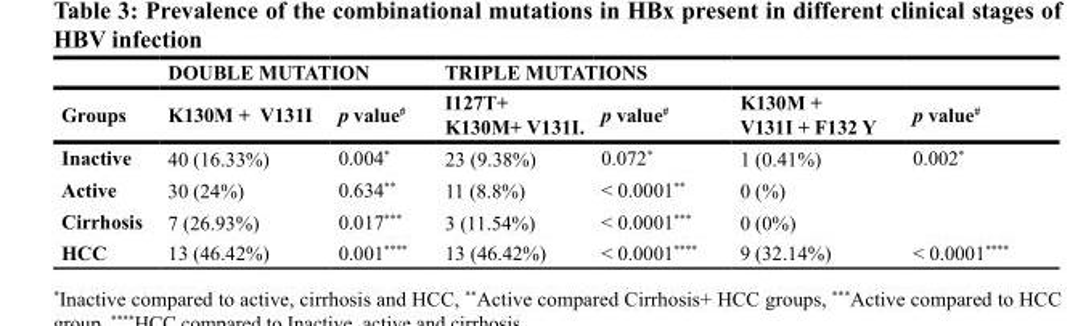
<table><thead><tr><td rowspan="2">Groups</td><td colspan="2">DOUBLE MUTATION</td><td colspan="2">TRIPLE MUTATIONS</td><td rowspan="2">K130M + V131I + F132 Y</td><td rowspan="2">p value<sup>#</sup></td></tr><tr><td>K130M + V131I</td><td>p value<sup>#</sup></td><td>I127T+ K130M+ V131I.</td><td>p value<sup>#</sup></td></tr></thead><tbody><tr><td>Inactive</td><td>40 (16.33%)</td><td>0.004*</td><td>23 (9.38%)</td><td>0.072*</td><td>1 (0.41%)</td><td>0.002*</td></tr><tr><td>Active</td><td>30 (24%)</td><td>0.634**</td><td>11 (8.8%)</td><td>&lt; 0.0001**</td><td>0 (%)</td><td></td></tr><tr><td>Cirrhosis</td><td>7 (26.93%)</td><td>0.017***</td><td>3 (11.54%)</td><td>&lt; 0.0001***</td><td>0 (0%)</td><td></td></tr><tr><td>HCC</td><td>13 (46.42%)</td><td>0.001****</td><td>13 (46.42%)</td><td>&lt; 0.0001****</td><td>9 (32.14%)</td><td>&lt; 0.0001****</td></tr></tbody></table>